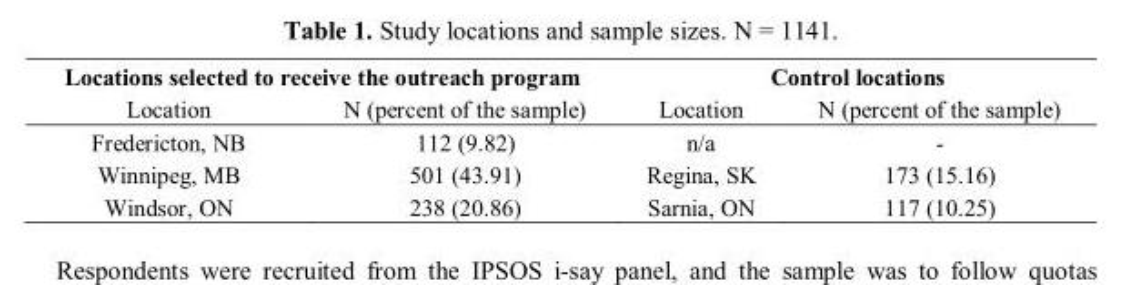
<table><thead><tr><td colspan="2">Locations selected to receive the outreach program</td><td colspan="2">Control locations</td></tr><tr><td>Location</td><td>N (percent of the sample)</td><td>Location</td><td>N (percent of the sample)</td></tr></thead><tbody><tr><td>Fredericton, NB</td><td>112 (9.82)</td><td>n/a</td><td>-</td></tr><tr><td>Winnipeg, MB</td><td>501 (43.91)</td><td>Regina, SK</td><td>173 (15.16)</td></tr><tr><td>Windsor, ON</td><td>238 (20.86)</td><td>Sarnia, ON</td><td>117 (10.25)</td></tr></tbody></table>